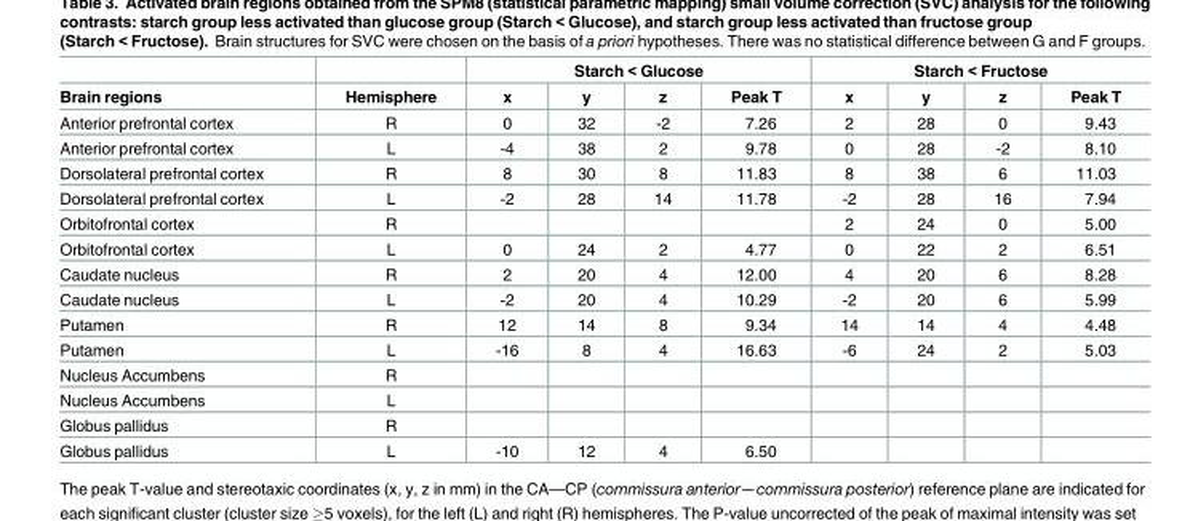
<table><thead><tr><td rowspan="2">Brain regions</td><td rowspan="2">Hemisphere</td><td colspan="4">Starch &lt; Glucose</td><td colspan="4">Starch &lt; Fructose</td></tr><tr><td>x</td><td>y</td><td>z</td><td>Peak T</td><td>x</td><td>y</td><td>z</td><td>Peak T</td></tr></thead><tbody><tr><td>Anterior prefrontal cortex</td><td>R</td><td>0</td><td>32</td><td>-2</td><td>7.26</td><td>2</td><td>28</td><td>0</td><td>9.43</td></tr><tr><td>Anterior prefrontal cortex</td><td>L</td><td>-4</td><td>38</td><td>2</td><td>9.78</td><td>0</td><td>28</td><td>-2</td><td>8.10</td></tr><tr><td>Dorsolateral prefrontal cortex</td><td>R</td><td>8</td><td>30</td><td>8</td><td>11.83</td><td>8</td><td>38</td><td>6</td><td>11.03</td></tr><tr><td>Dorsolateral prefrontal cortex</td><td>L</td><td>-2</td><td>28</td><td>14</td><td>11.78</td><td>-2</td><td>28</td><td>16</td><td>7.94</td></tr><tr><td>Orbitofrontal cortex</td><td>R</td><td></td><td></td><td></td><td></td><td>2</td><td>24</td><td>0</td><td>5.00</td></tr><tr><td>Orbitofrontal cortex</td><td>L</td><td>0</td><td>24</td><td>2</td><td>4.77</td><td>0</td><td>22</td><td>2</td><td>6.51</td></tr><tr><td>Caudate nucleus</td><td>R</td><td>2</td><td>20</td><td>4</td><td>12.00</td><td>4</td><td>20</td><td>6</td><td>8.28</td></tr><tr><td>Caudate nucleus</td><td>L</td><td>-2</td><td>20</td><td>4</td><td>10.29</td><td>-2</td><td>20</td><td>6</td><td>5.99</td></tr><tr><td>Putamen</td><td>R</td><td>12</td><td>14</td><td>8</td><td>9.34</td><td>14</td><td>14</td><td>4</td><td>4.48</td></tr><tr><td>Putamen</td><td>L</td><td>-16</td><td>8</td><td>4</td><td>16.63</td><td>-6</td><td>24</td><td>2</td><td>5.03</td></tr><tr><td>Nucleus Accumbens</td><td>R</td><td></td><td></td><td></td><td></td><td></td><td></td><td></td><td></td></tr><tr><td>Nucleus Accumbens</td><td>L</td><td></td><td></td><td></td><td></td><td></td><td></td><td></td><td></td></tr><tr><td>Globus pallidus</td><td>R</td><td></td><td></td><td></td><td></td><td></td><td></td><td></td><td></td></tr><tr><td>Globus pallidus</td><td>L</td><td>-10</td><td>12</td><td>4</td><td>6.50</td><td></td><td></td><td></td><td></td></tr></tbody></table>